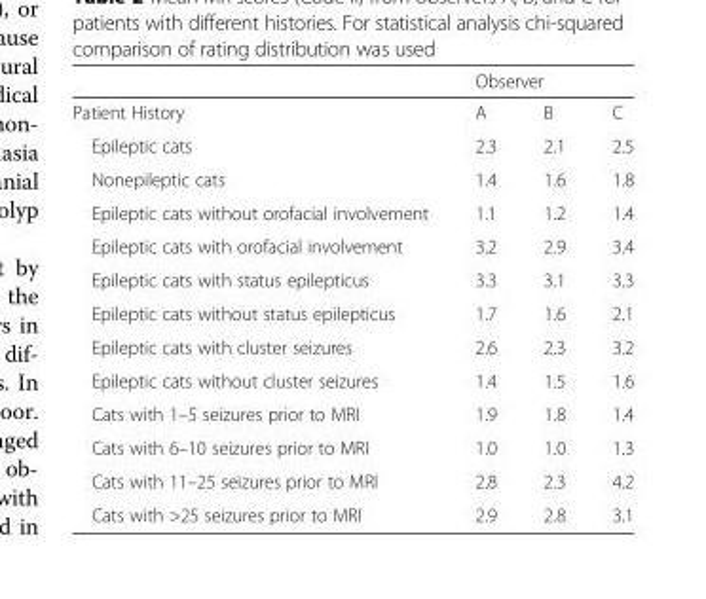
<table><thead><tr><td rowspan="2">Patient History</td><td colspan="3">Observer</td></tr><tr><td>A</td><td>B</td><td>C</td></tr></thead><tbody><tr><td>Epileptic cats</td><td>2.3</td><td>2.1</td><td>2.5</td></tr><tr><td>Nonepileptic cats</td><td>1.4</td><td>1.6</td><td>1.8</td></tr><tr><td>Epileptic cats without orofacial involvement</td><td>1.1</td><td>1.2</td><td>1.4</td></tr><tr><td>Epileptic cats with orofacial involvement</td><td>3.2</td><td>2.9</td><td>3.4</td></tr><tr><td>Epileptic cats with status epilepticus</td><td>3.3</td><td>3.1</td><td>3.3</td></tr><tr><td>Epileptic cats without status epilepticus</td><td>1.7</td><td>1.6</td><td>2.1</td></tr><tr><td>Epileptic cats with cluster seizures</td><td>2.6</td><td>2.3</td><td>3.2</td></tr><tr><td>Epileptic cats without cluster seizures</td><td>1.4</td><td>1.5</td><td>1.6</td></tr><tr><td>Cats with 1–5 seizures prior to MRI</td><td>1.9</td><td>1.8</td><td>1.4</td></tr><tr><td>Cats with 6–10 seizures prior to MRI</td><td>1.0</td><td>1.0</td><td>1.3</td></tr><tr><td>Cats with 11–25 seizures prior to MRI</td><td>2.8</td><td>2.3</td><td>4.2</td></tr><tr><td>Cats with &gt;25 seizures prior to MRI</td><td>2.9</td><td>2.8</td><td>3.1</td></tr></tbody></table>